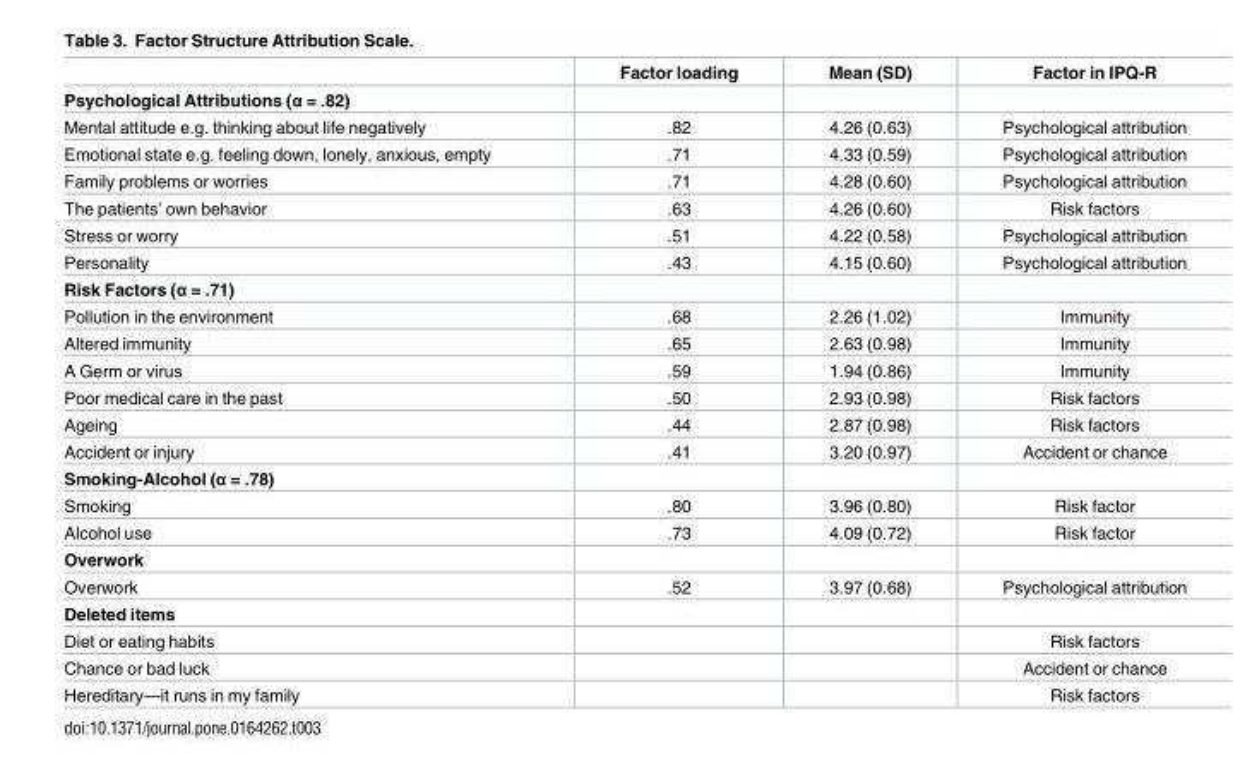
<table><thead><tr><td></td><td>Factor loading</td><td>Mean (SD)</td><td>Factor in IPQ-R</td></tr></thead><tbody><tr><td colspan="4">Psychological Attributions (α = .82)</td></tr><tr><td>Mental attitude e.g. thinking about life negatively</td><td>.82</td><td>4.26 (0.63)</td><td>Psychological attribution</td></tr><tr><td>Emotional state e.g. feeling down, lonely, anxious, empty</td><td>.71</td><td>4.33 (0.59)</td><td>Psychological attribution</td></tr><tr><td>Family problems or worries</td><td>.71</td><td>4.28 (0.60)</td><td>Psychological attribution</td></tr><tr><td>The patients’ own behavior</td><td>.63</td><td>4.26 (0.60)</td><td>Risk factors</td></tr><tr><td>Stress or worry</td><td>.51</td><td>4.22 (0.58)</td><td>Psychological attribution</td></tr><tr><td>Personality</td><td>.43</td><td>4.15 (0.60)</td><td>Psychological attribution</td></tr><tr><td colspan="4">Risk Factors (α = .71)</td></tr><tr><td>Pollution in the environment</td><td>.68</td><td>2.26 (1.02)</td><td>Immunity</td></tr><tr><td>Altered immunity</td><td>.65</td><td>2.63 (0.98)</td><td>Immunity</td></tr><tr><td>A Germ or virus</td><td>.59</td><td>1.94 (0.86)</td><td>Immunity</td></tr><tr><td>Poor medical care in the past</td><td>.50</td><td>2.93 (0.98)</td><td>Risk factors</td></tr><tr><td>Ageing</td><td>.44</td><td>2.87 (0.98)</td><td>Risk factors</td></tr><tr><td>Accident or injury</td><td>.41</td><td>3.20 (0.97)</td><td>Accident or chance</td></tr><tr><td colspan="4">Smoking-Alcohol (α = .78)</td></tr><tr><td>Smoking</td><td>.80</td><td>3.96 (0.80)</td><td>Risk factor</td></tr><tr><td>Alcohol use</td><td>.73</td><td>4.09 (0.72)</td><td>Risk factor</td></tr><tr><td colspan="4">Overwork</td></tr><tr><td>Overwork</td><td>.52</td><td>3.97 (0.68)</td><td>Psychological attribution</td></tr><tr><td colspan="4">Deleted items</td></tr><tr><td>Diet or eating habits</td><td></td><td></td><td>Risk factors</td></tr><tr><td>Chance or bad luck</td><td></td><td></td><td>Accident or chance</td></tr><tr><td>Hereditary—it runs in my family</td><td></td><td></td><td>Risk factors</td></tr></tbody></table>